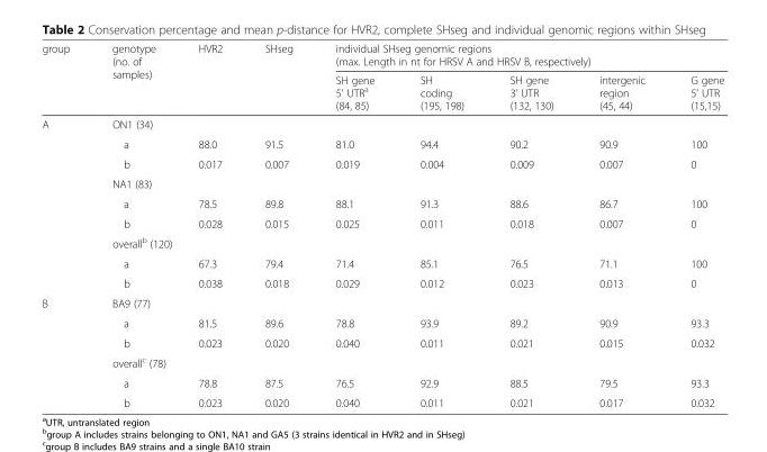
<table><thead><tr><td rowspan="2">group</td><td rowspan="2">genotype (no. of samples)</td><td rowspan="2">HVR2</td><td rowspan="2">SHseg</td><td colspan="5">individual SHseg genomic regions (max. Length in nt for HRSV A and HRSV B, respectively)</td></tr><tr><td>SH gene 5’ UTR<sup>a</sup> (84, 85)</td><td>SH coding (195, 198)</td><td>SH gene 3’ UTR (132, 130)</td><td>intergenic region (45, 44)</td><td>G gene 5’ UTR (15,15)</td></tr></thead><tbody><tr><td rowspan="9">A</td><td colspan="8">ON1 (34)</td></tr><tr><td>a</td><td>88.0</td><td>91.5</td><td>81.0</td><td>94.4</td><td>90.2</td><td>90.9</td><td>100</td></tr><tr><td>b</td><td>0.017</td><td>0.007</td><td>0.019</td><td>0.004</td><td>0.009</td><td>0.007</td><td>0</td></tr><tr><td colspan="8">NA1 (83)</td></tr><tr><td>a</td><td>78.5</td><td>89.8</td><td>88.1</td><td>91.3</td><td>88.6</td><td>86.7</td><td>100</td></tr><tr><td>b</td><td>0.028</td><td>0.015</td><td>0.025</td><td>0.011</td><td>0.018</td><td>0.007</td><td>0</td></tr><tr><td colspan="8">overall<sup>b</sup> (120)</td></tr><tr><td>a</td><td>67.3</td><td>79.4</td><td>71.4</td><td>85.1</td><td>76.5</td><td>71.1</td><td>100</td></tr><tr><td>b</td><td>0.038</td><td>0.018</td><td>0.029</td><td>0.012</td><td>0.023</td><td>0.013</td><td>0</td></tr><tr><td rowspan="6">B</td><td>BA9 (77)</td><td></td><td></td><td></td><td></td><td></td><td></td><td></td></tr><tr><td>a</td><td>81.5</td><td>89.6</td><td>78.8</td><td>93.9</td><td>89.2</td><td>90.9</td><td>93.3</td></tr><tr><td>b</td><td>0.023</td><td>0.020</td><td>0.040</td><td>0.011</td><td>0.021</td><td>0.015</td><td>0.032</td></tr><tr><td colspan="8">overall<sup>c</sup> (78)</td></tr><tr><td>a</td><td>78.8</td><td>87.5</td><td>76.5</td><td>92.9</td><td>88.5</td><td>79.5</td><td>93.3</td></tr><tr><td>b</td><td>0.023</td><td>0.020</td><td>0.040</td><td>0.011</td><td>0.021</td><td>0.017</td><td>0.032</td></tr></tbody></table>